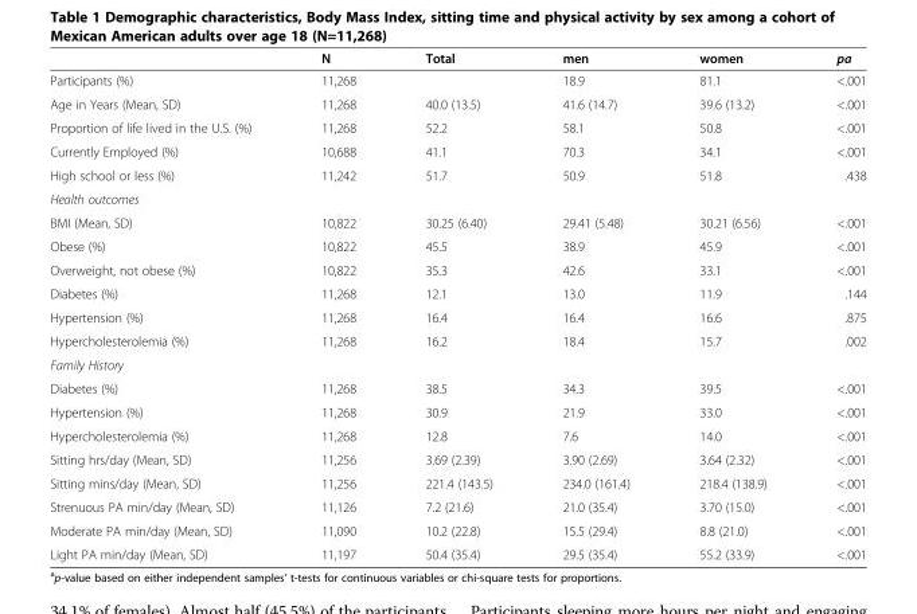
<table><thead><tr><td></td><td>N</td><td>Total</td><td>men</td><td>women</td><td>pa</td></tr></thead><tbody><tr><td>Participants (%)</td><td>11,268</td><td></td><td>18.9</td><td>81.1</td><td>&lt;.001</td></tr><tr><td>Age in Years (Mean, SD)</td><td>11,268</td><td>40.0 (13.5)</td><td>41.6 (14.7)</td><td>39.6 (13.2)</td><td>&lt;.001</td></tr><tr><td>Proportion of life lived in the U.S. (%)</td><td>11,268</td><td>52.2</td><td>58.1</td><td>50.8</td><td>&lt;.001</td></tr><tr><td>Currently Employed (%)</td><td>10,688</td><td>41.1</td><td>70.3</td><td>34.1</td><td>&lt;.001</td></tr><tr><td>High school or less (%)</td><td>11,242</td><td>51.7</td><td>50.9</td><td>51.8</td><td>.438</td></tr><tr><td colspan="6">Health outcomes</td></tr><tr><td>BMI (Mean, SD)</td><td>10,822</td><td>30.25 (6.40)</td><td>29.41 (5.48)</td><td>30.21 (6.56)</td><td>&lt;.001</td></tr><tr><td>Obese (%)</td><td>10,822</td><td>45.5</td><td>38.9</td><td>45.9</td><td>&lt;.001</td></tr><tr><td>Overweight, not obese (%)</td><td>10,822</td><td>35.3</td><td>42.6</td><td>33.1</td><td>&lt;.001</td></tr><tr><td>Diabetes (%)</td><td>11,268</td><td>12.1</td><td>13.0</td><td>11.9</td><td>.144</td></tr><tr><td>Hypertension (%)</td><td>11,268</td><td>16.4</td><td>16.4</td><td>16.6</td><td>.875</td></tr><tr><td>Hypercholesterolemia (%)</td><td>11,268</td><td>16.2</td><td>18.4</td><td>15.7</td><td>.002</td></tr><tr><td colspan="6">Family History</td></tr><tr><td>Diabetes (%)</td><td>11,268</td><td>38.5</td><td>34.3</td><td>39.5</td><td>&lt;.001</td></tr><tr><td>Hypertension (%)</td><td>11,268</td><td>30.9</td><td>21.9</td><td>33.0</td><td>&lt;.001</td></tr><tr><td>Hypercholesterolemia (%)</td><td>11,268</td><td>12.8</td><td>7.6</td><td>14.0</td><td>&lt;.001</td></tr><tr><td>Sitting hrs/day (Mean, SD)</td><td>11,256</td><td>3.69 (2.39)</td><td>3.90 (2.69)</td><td>3.64 (2.32)</td><td>&lt;.001</td></tr><tr><td>Sitting mins/day (Mean, SD)</td><td>11,256</td><td>221.4 (143.5)</td><td>234.0 (161.4)</td><td>218.4 (138.9)</td><td>&lt;.001</td></tr><tr><td>Strenuous PA min/day (Mean, SD)</td><td>11,126</td><td>7.2 (21.6)</td><td>21.0 (35.4)</td><td>3.70 (15.0)</td><td>&lt;.001</td></tr><tr><td>Moderate PA min/day (Mean, SD)</td><td>11,090</td><td>10.2 (22.8)</td><td>15.5 (29.4)</td><td>8.8 (21.0)</td><td>&lt;.001</td></tr><tr><td>Light PA min/day (Mean, SD)</td><td>11,197</td><td>50.4 (35.4)</td><td>29.5 (35.4)</td><td>55.2 (33.9)</td><td>&lt;.001</td></tr></tbody></table>